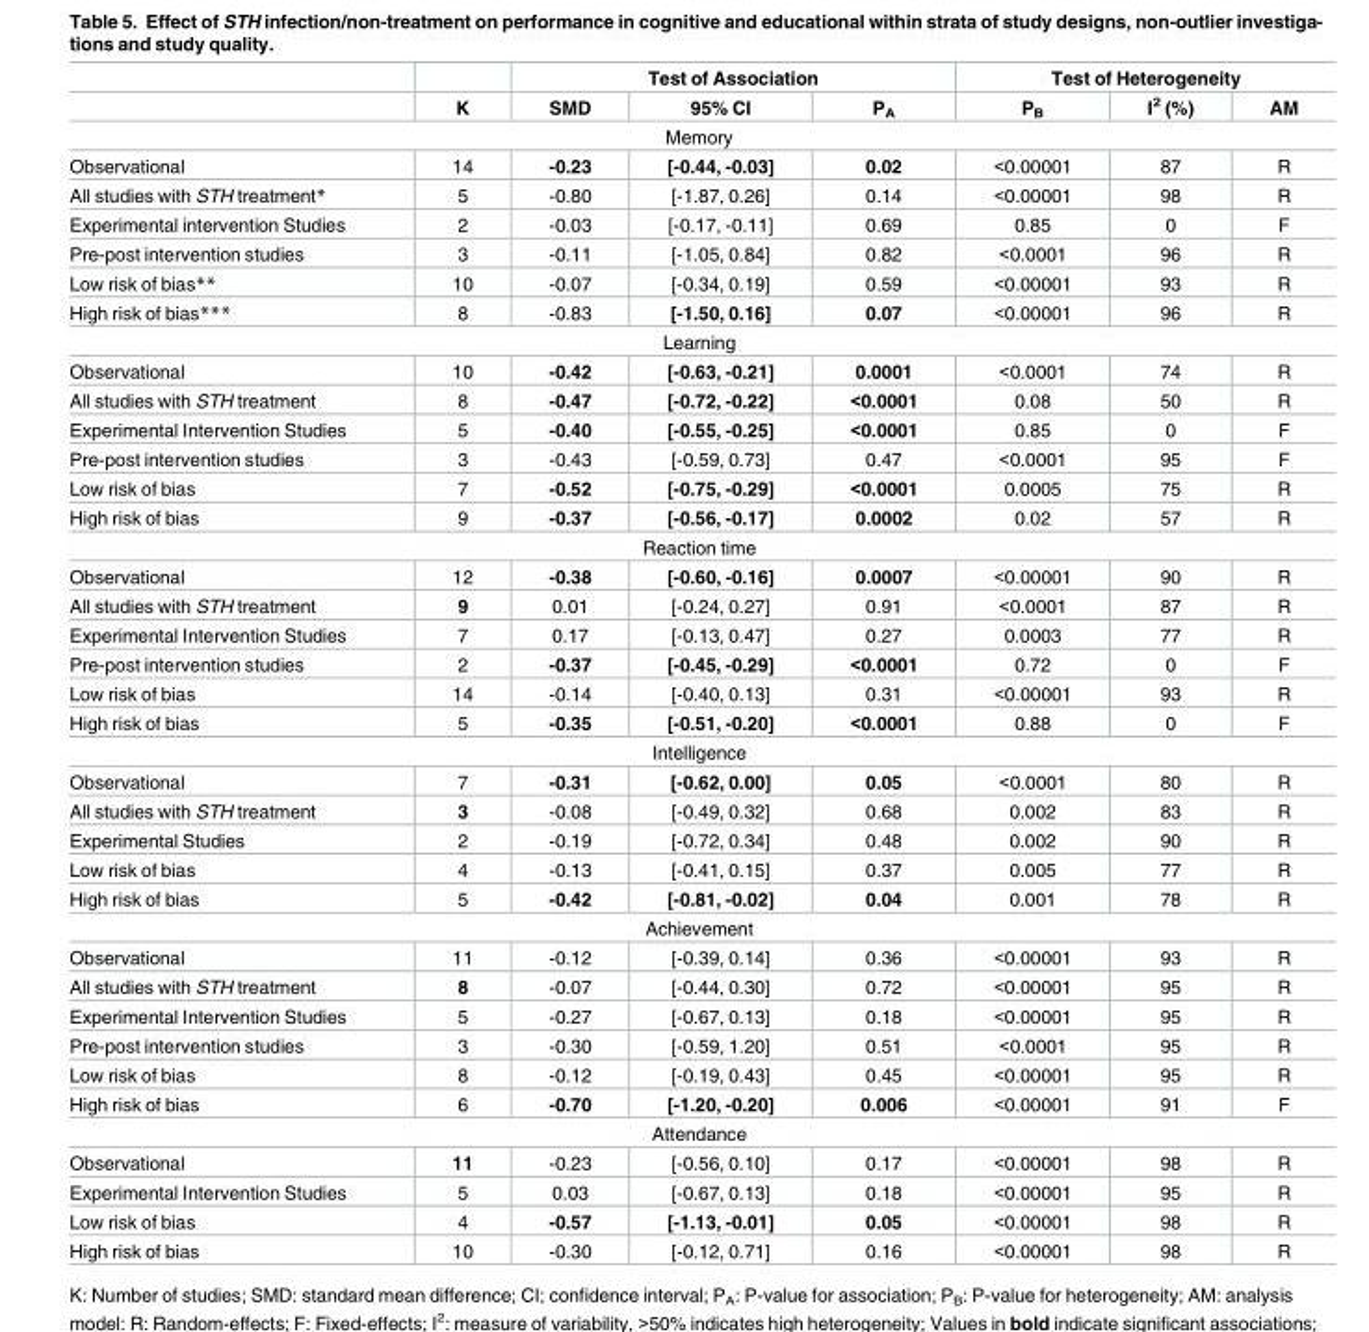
<table><thead><tr><td rowspan="2"></td><td rowspan="2">K</td><td colspan="3">Test of Association</td><td colspan="3">Test of Heterogeneity</td></tr><tr><td>SMD</td><td>95% CI</td><td>P<sub>A</sub></td><td>P<sub>B</sub></td><td>I<sup>2</sup> (%)</td><td>AM</td></tr></thead><tbody><tr><td colspan="8">Memory</td></tr><tr><td>Observational</td><td>14</td><td>-0.23</td><td>[-0.44, -0.03]</td><td>0.02</td><td>&lt;0.00001</td><td>87</td><td>R</td></tr><tr><td>All studies with STH treatment*</td><td>5</td><td>-0.80</td><td>[-1.87, 0.26]</td><td>0.14</td><td>&lt;0.00001</td><td>98</td><td>R</td></tr><tr><td>Experimental intervention Studies</td><td>2</td><td>-0.03</td><td>[-0.17, -0.11]</td><td>0.69</td><td>0.85</td><td>0</td><td>F</td></tr><tr><td>Pre-post intervention studies</td><td>3</td><td>-0.11</td><td>[-1.05, 0.84]</td><td>0.82</td><td>&lt;0.0001</td><td>96</td><td>R</td></tr><tr><td>Low risk of bias**</td><td>10</td><td>-0.07</td><td>[-0.34, 0.19]</td><td>0.59</td><td>&lt;0.00001</td><td>93</td><td>R</td></tr><tr><td>High risk of bias***</td><td>8</td><td>-0.83</td><td>[-1.50, 0.16]</td><td>0.07</td><td>&lt;0.00001</td><td>96</td><td>R</td></tr><tr><td colspan="8">Learning</td></tr><tr><td>Observational</td><td>10</td><td>-0.42</td><td>[-0.63, -0.21]</td><td>0.0001</td><td>&lt;0.0001</td><td>74</td><td>R</td></tr><tr><td>All studies with STH treatment</td><td>8</td><td>-0.47</td><td>[-0.72, -0.22]</td><td>&lt;0.0001</td><td>0.08</td><td>50</td><td>R</td></tr><tr><td>Experimental Intervention Studies</td><td>5</td><td>-0.40</td><td>[-0.55, -0.25]</td><td>&lt;0.0001</td><td>0.85</td><td>0</td><td>F</td></tr><tr><td>Pre-post intervention studies</td><td>3</td><td>-0.43</td><td>[-0.59, 0.73]</td><td>0.47</td><td>&lt;0.0001</td><td>95</td><td>F</td></tr><tr><td>Low risk of bias</td><td>7</td><td>-0.52</td><td>[-0.75, -0.29]</td><td>&lt;0.0001</td><td>0.0005</td><td>75</td><td>R</td></tr><tr><td>High risk of bias</td><td>9</td><td>-0.37</td><td>[-0.56, -0.17]</td><td>0.0002</td><td>0.02</td><td>57</td><td>R</td></tr><tr><td colspan="8">Reaction time</td></tr><tr><td>Observational</td><td>12</td><td>-0.38</td><td>[-0.60, -0.16]</td><td>0.0007</td><td>&lt;0.00001</td><td>90</td><td>R</td></tr><tr><td>All studies with STH treatment</td><td>9</td><td>0.01</td><td>[-0.24, 0.27]</td><td>0.91</td><td>&lt;0.0001</td><td>87</td><td>R</td></tr><tr><td>Experimental Intervention Studies</td><td>7</td><td>0.17</td><td>[-0.13, 0.47]</td><td>0.27</td><td>0.0003</td><td>77</td><td>R</td></tr><tr><td>Pre-post intervention studies</td><td>2</td><td>-0.37</td><td>[-0.45, -0.29]</td><td>&lt;0.0001</td><td>0.72</td><td>0</td><td>F</td></tr><tr><td>Low risk of bias</td><td>14</td><td>-0.14</td><td>[-0.40, 0.13]</td><td>0.31</td><td>&lt;0.00001</td><td>93</td><td>R</td></tr><tr><td>High risk of bias</td><td>5</td><td>-0.35</td><td>[-0.51, -0.20]</td><td>&lt;0.0001</td><td>0.88</td><td>0</td><td>F</td></tr><tr><td colspan="8">Intelligence</td></tr><tr><td>Observational</td><td>7</td><td>-0.31</td><td>[-0.62, 0.00]</td><td>0.05</td><td>&lt;0.0001</td><td>80</td><td>R</td></tr><tr><td>All studies with STH treatment</td><td>3</td><td>-0.08</td><td>[-0.49, 0.32]</td><td>0.68</td><td>0.002</td><td>83</td><td>R</td></tr><tr><td>Experimental Studies</td><td>2</td><td>-0.19</td><td>[-0.72, 0.34]</td><td>0.48</td><td>0.002</td><td>90</td><td>R</td></tr><tr><td>Low risk of bias</td><td>4</td><td>-0.13</td><td>[-0.41, 0.15]</td><td>0.37</td><td>0.005</td><td>77</td><td>R</td></tr><tr><td>High risk of bias</td><td>5</td><td>-0.42</td><td>[-0.81, -0.02]</td><td>0.04</td><td>0.001</td><td>78</td><td>R</td></tr><tr><td colspan="8">Achievement</td></tr><tr><td>Observational</td><td>11</td><td>-0.12</td><td>[-0.39, 0.14]</td><td>0.36</td><td>&lt;0.00001</td><td>93</td><td>R</td></tr><tr><td>All studies with STH treatment</td><td>8</td><td>-0.07</td><td>[-0.44, 0.30]</td><td>0.72</td><td>&lt;0.00001</td><td>95</td><td>R</td></tr><tr><td>Experimental Intervention Studies</td><td>5</td><td>-0.27</td><td>[-0.67, 0.13]</td><td>0.18</td><td>&lt;0.00001</td><td>95</td><td>R</td></tr><tr><td>Pre-post intervention studies</td><td>3</td><td>-0.30</td><td>[-0.59, 1.20]</td><td>0.51</td><td>&lt;0.0001</td><td>95</td><td>R</td></tr><tr><td>Low risk of bias</td><td>8</td><td>-0.12</td><td>[-0.19, 0.43]</td><td>0.45</td><td>&lt;0.00001</td><td>95</td><td>R</td></tr><tr><td>High risk of bias</td><td>6</td><td>-0.70</td><td>[-1.20, -0.20]</td><td>0.006</td><td>&lt;0.00001</td><td>91</td><td>F</td></tr><tr><td colspan="8">Attendance</td></tr><tr><td>Observational</td><td>11</td><td>-0.23</td><td>[-0.56, 0.10]</td><td>0.17</td><td>&lt;0.00001</td><td>98</td><td>R</td></tr><tr><td>Experimental Intervention Studies</td><td>5</td><td>0.03</td><td>[-0.67, 0.13]</td><td>0.18</td><td>&lt;0.00001</td><td>95</td><td>R</td></tr><tr><td>Low risk of bias</td><td>4</td><td>-0.57</td><td>[-1.13, -0.01]</td><td>0.05</td><td>&lt;0.00001</td><td>98</td><td>R</td></tr><tr><td>High risk of bias</td><td>10</td><td>-0.30</td><td>[-0.12, 0.71]</td><td>0.16</td><td>&lt;0.00001</td><td>98</td><td>R</td></tr></tbody></table>